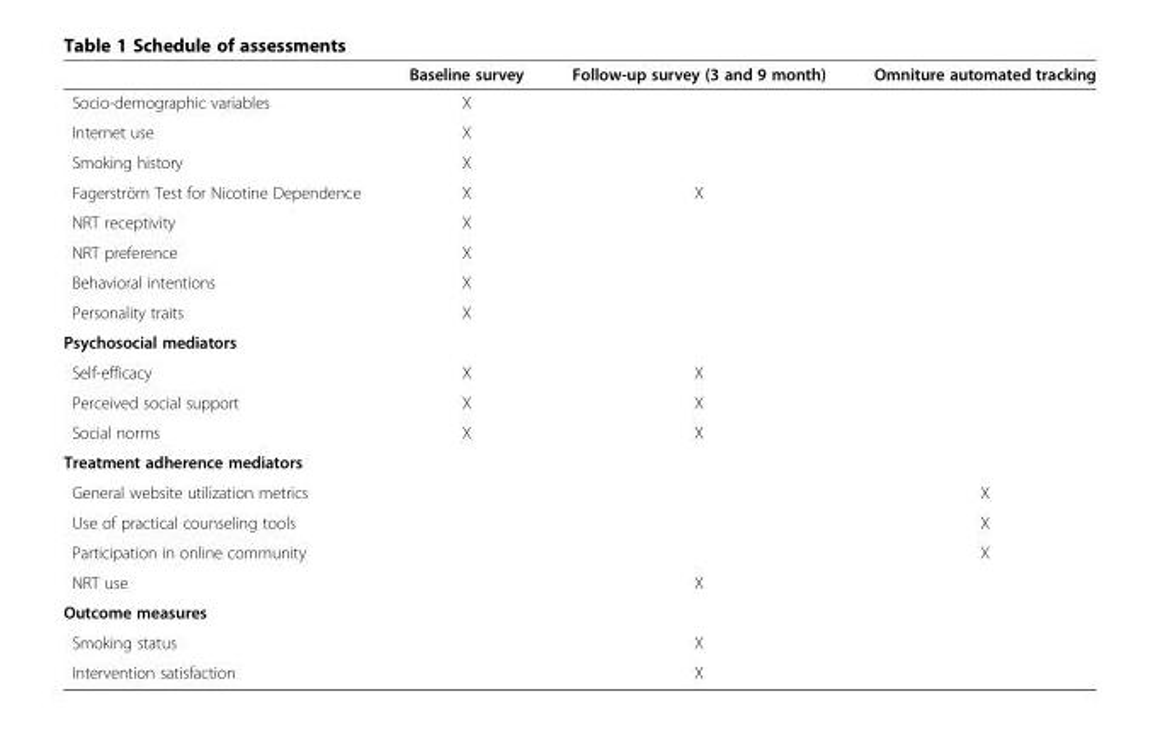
<table><thead><tr><td></td><td>Baseline survey</td><td>Follow-up survey (3 and 9 month)</td><td>Omniture automated tracking</td></tr></thead><tbody><tr><td>Socio-demographic variables</td><td>X</td><td></td><td></td></tr><tr><td>Internet use</td><td>X</td><td></td><td></td></tr><tr><td>Smoking history</td><td>X</td><td></td><td></td></tr><tr><td>Fagerström Test for Nicotine Dependence</td><td>X</td><td>X</td><td></td></tr><tr><td>NRT receptivity</td><td>X</td><td></td><td></td></tr><tr><td>NRT preference</td><td>X</td><td></td><td></td></tr><tr><td>Behavioral intentions</td><td>X</td><td></td><td></td></tr><tr><td>Personality traits</td><td>X</td><td></td><td></td></tr><tr><td colspan="4">Psychosocial mediators</td></tr><tr><td>Self-efficacy</td><td>X</td><td>X</td><td></td></tr><tr><td>Perceived social support</td><td>X</td><td>X</td><td></td></tr><tr><td>Social norms</td><td>X</td><td>X</td><td></td></tr><tr><td colspan="4">Treatment adherence mediators</td></tr><tr><td>General website utilization metrics</td><td></td><td></td><td>X</td></tr><tr><td>Use of practical counseling tools</td><td></td><td></td><td>X</td></tr><tr><td>Participation in online community</td><td></td><td></td><td>X</td></tr><tr><td>NRT use</td><td></td><td>X</td><td></td></tr><tr><td colspan="4">Outcome measures</td></tr><tr><td>Smoking status</td><td></td><td>X</td><td></td></tr><tr><td>Intervention satisfaction</td><td></td><td>X</td><td></td></tr></tbody></table>